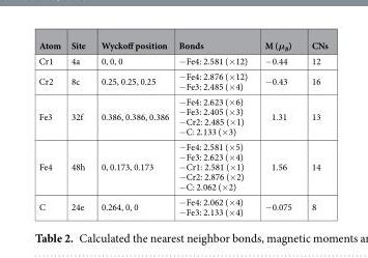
<table><thead><tr><td>Atom</td><td>Site</td><td>Wyckoff position</td><td>Bonds</td><td>M (μ<sub>B</sub>)</td><td>CNs</td></tr></thead><tbody><tr><td>Cr1</td><td>4a</td><td>0, 0, 0</td><td>−Fe4: 2.581 (×12)</td><td>−0.44</td><td>12</td></tr><tr><td>Cr2</td><td>8c</td><td>0.25, 0.25, 0.25</td><td>−Fe4: 2.876 (×12) −Fe3: 2.485 (×4)</td><td>−0.43</td><td>16</td></tr><tr><td>Fe3</td><td>32f</td><td>0.386, 0.386, 0.386</td><td>−Fe4: 2.623 (×6) −Fe3: 2.405 (×3) −Cr2: 2.485 (×1) −C: 2.133 (×3)</td><td>1.31</td><td>13</td></tr><tr><td>Fe4</td><td>48h</td><td>0, 0.173, 0.173</td><td>−Fe4: 2.581 (×5) −Fe3: 2.623 (×4) −Cr1: 2.581 (×1) −Cr2: 2.876 (×2) −C: 2.062 (×2)</td><td>1.56</td><td>14</td></tr><tr><td>C</td><td>24e</td><td>0.264, 0, 0</td><td>−Fe4: 2.062 (×4) −Fe3: 2.133 (×4)</td><td>−0.075</td><td>8</td></tr></tbody></table>